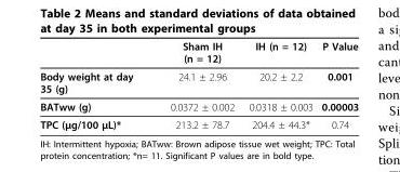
<table><thead><tr><td></td><td>Sham IH (n = 12)</td><td>IH (n = 12)</td><td>P Value</td></tr></thead><tbody><tr><td>Body weight at day 35 (g)</td><td>24.1 ± 2.96</td><td>20.2 ± 2.2</td><td>0.001</td></tr><tr><td>BATww (g)</td><td>0.0372 ± 0.002</td><td>0.0318 ± 0.003</td><td>0.00003</td></tr><tr><td>TPC (μg/100 μL)*</td><td>213.2 ± 78.7</td><td>204.4 ± 44.3*</td><td>0.74</td></tr></tbody></table>